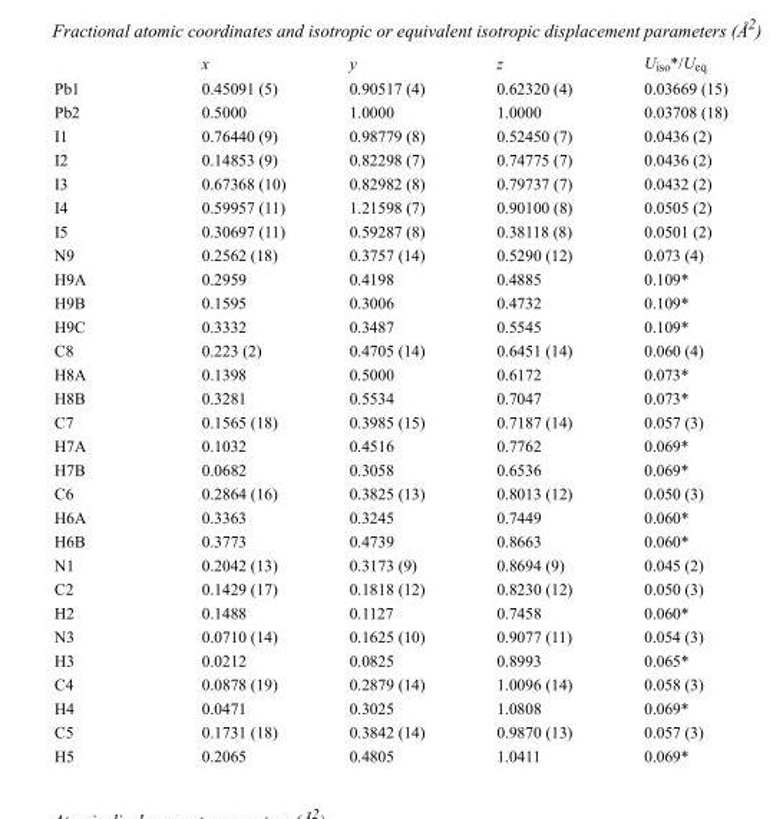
<table><thead><tr><td></td><td>x</td><td>y</td><td>z</td><td>U<sub>iso</sub>*/U<sub>eq</sub></td></tr></thead><tbody><tr><td>Pb1</td><td>0.45091 (5)</td><td>0.90517 (4)</td><td>0.62320 (4)</td><td>0.03669 (15)</td></tr><tr><td>Pb2</td><td>0.5000</td><td>1.0000</td><td>1.0000</td><td>0.03708 (18)</td></tr><tr><td>I1</td><td>0.76440 (9)</td><td>0.98779 (8)</td><td>0.52450 (7)</td><td>0.0436 (2)</td></tr><tr><td>I2</td><td>0.14853 (9)</td><td>0.82298 (7)</td><td>0.74775 (7)</td><td>0.0436 (2)</td></tr><tr><td>I3</td><td>0.67368 (10)</td><td>0.82982 (8)</td><td>0.79737 (7)</td><td>0.0432 (2)</td></tr><tr><td>I4</td><td>0.59957 (11)</td><td>1.21598 (7)</td><td>0.90100 (8)</td><td>0.0505 (2)</td></tr><tr><td>I5</td><td>0.30697 (11)</td><td>0.59287 (8)</td><td>0.38118 (8)</td><td>0.0501 (2)</td></tr><tr><td>N9</td><td>0.2562 (18)</td><td>0.3757 (14)</td><td>0.5290 (12)</td><td>0.073 (4)</td></tr><tr><td>H9A</td><td>0.2959</td><td>0.4198</td><td>0.4885</td><td>0.109*</td></tr><tr><td>H9B</td><td>0.1595</td><td>0.3006</td><td>0.4732</td><td>0.109*</td></tr><tr><td>H9C</td><td>0.3332</td><td>0.3487</td><td>0.5545</td><td>0.109*</td></tr><tr><td>C8</td><td>0.223 (2)</td><td>0.4705 (14)</td><td>0.6451 (14)</td><td>0.060 (4)</td></tr><tr><td>H8A</td><td>0.1398</td><td>0.5000</td><td>0.6172</td><td>0.073*</td></tr><tr><td>H8B</td><td>0.3281</td><td>0.5534</td><td>0.7047</td><td>0.073*</td></tr><tr><td>C7</td><td>0.1565 (18)</td><td>0.3985 (15)</td><td>0.7187 (14)</td><td>0.057 (3)</td></tr><tr><td>H7A</td><td>0.1032</td><td>0.4516</td><td>0.7762</td><td>0.069*</td></tr><tr><td>H7B</td><td>0.0682</td><td>0.3058</td><td>0.6536</td><td>0.069*</td></tr><tr><td>C6</td><td>0.2864 (16)</td><td>0.3825 (13)</td><td>0.8013 (12)</td><td>0.050 (3)</td></tr><tr><td>H6A</td><td>0.3363</td><td>0.3245</td><td>0.7449</td><td>0.060*</td></tr><tr><td>H6B</td><td>0.3773</td><td>0.4739</td><td>0.8663</td><td>0.060*</td></tr><tr><td>N1</td><td>0.2042 (13)</td><td>0.3173 (9)</td><td>0.8694 (9)</td><td>0.045 (2)</td></tr><tr><td>C2</td><td>0.1429 (17)</td><td>0.1818 (12)</td><td>0.8230 (12)</td><td>0.050 (3)</td></tr><tr><td>H2</td><td>0.1488</td><td>0.1127</td><td>0.7458</td><td>0.060*</td></tr><tr><td>N3</td><td>0.0710 (14)</td><td>0.1625 (10)</td><td>0.9077 (11)</td><td>0.054 (3)</td></tr><tr><td>H3</td><td>0.0212</td><td>0.0825</td><td>0.8993</td><td>0.065*</td></tr><tr><td>C4</td><td>0.0878 (19)</td><td>0.2879 (14)</td><td>1.0096 (14)</td><td>0.058 (3)</td></tr><tr><td>H4</td><td>0.0471</td><td>0.3025</td><td>1.0808</td><td>0.069*</td></tr><tr><td>C5</td><td>0.1731 (18)</td><td>0.3842 (14)</td><td>0.9870 (13)</td><td>0.057 (3)</td></tr><tr><td>H5</td><td>0.2065</td><td>0.4805</td><td>1.0411</td><td>0.069*</td></tr></tbody></table>